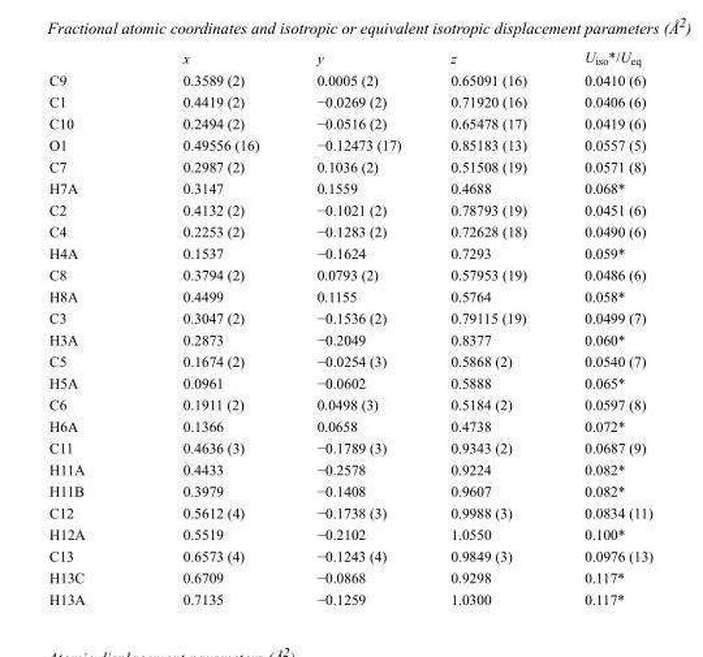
<table><thead><tr><td></td><td>x</td><td>y</td><td>z</td><td>U<sub>iso</sub>*/U<sub>eq</sub></td></tr></thead><tbody><tr><td>C9</td><td>0.3589 (2)</td><td>0.0005 (2)</td><td>0.65091 (16)</td><td>0.0410 (6)</td></tr><tr><td>C1</td><td>0.4419 (2)</td><td>−0.0269 (2)</td><td>0.71920 (16)</td><td>0.0406 (6)</td></tr><tr><td>C10</td><td>0.2494 (2)</td><td>−0.0516 (2)</td><td>0.65478 (17)</td><td>0.0419 (6)</td></tr><tr><td>O1</td><td>0.49556 (16)</td><td>−0.12473 (17)</td><td>0.85183 (13)</td><td>0.0557 (5)</td></tr><tr><td>C7</td><td>0.2987 (2)</td><td>0.1036 (2)</td><td>0.51508 (19)</td><td>0.0571 (8)</td></tr><tr><td>H7A</td><td>0.3147</td><td>0.1559</td><td>0.4688</td><td>0.068*</td></tr><tr><td>C2</td><td>0.4132 (2)</td><td>−0.1021 (2)</td><td>0.78793 (19)</td><td>0.0451 (6)</td></tr><tr><td>C4</td><td>0.2253 (2)</td><td>−0.1283 (2)</td><td>0.72628 (18)</td><td>0.0490 (6)</td></tr><tr><td>H4A</td><td>0.1537</td><td>−0.1624</td><td>0.7293</td><td>0.059*</td></tr><tr><td>C8</td><td>0.3794 (2)</td><td>0.0793 (2)</td><td>0.57953 (19)</td><td>0.0486 (6)</td></tr><tr><td>H8A</td><td>0.4499</td><td>0.1155</td><td>0.5764</td><td>0.058*</td></tr><tr><td>C3</td><td>0.3047 (2)</td><td>−0.1536 (2)</td><td>0.79115 (19)</td><td>0.0499 (7)</td></tr><tr><td>H3A</td><td>0.2873</td><td>−0.2049</td><td>0.8377</td><td>0.060*</td></tr><tr><td>C5</td><td>0.1674 (2)</td><td>−0.0254 (3)</td><td>0.5868 (2)</td><td>0.0540 (7)</td></tr><tr><td>H5A</td><td>0.0961</td><td>−0.0602</td><td>0.5888</td><td>0.065*</td></tr><tr><td>C6</td><td>0.1911 (2)</td><td>0.0498 (3)</td><td>0.5184 (2)</td><td>0.0597 (8)</td></tr><tr><td>H6A</td><td>0.1366</td><td>0.0658</td><td>0.4738</td><td>0.072*</td></tr><tr><td>C11</td><td>0.4636 (3)</td><td>−0.1789 (3)</td><td>0.9343 (2)</td><td>0.0687 (9)</td></tr><tr><td>H11A</td><td>0.4433</td><td>−0.2578</td><td>0.9224</td><td>0.082*</td></tr><tr><td>H11B</td><td>0.3979</td><td>−0.1408</td><td>0.9607</td><td>0.082*</td></tr><tr><td>C12</td><td>0.5612 (4)</td><td>−0.1738 (3)</td><td>0.9988 (3)</td><td>0.0834 (11)</td></tr><tr><td>H12A</td><td>0.5519</td><td>−0.2102</td><td>1.0550</td><td>0.100*</td></tr><tr><td>C13</td><td>0.6573 (4)</td><td>−0.1243 (4)</td><td>0.9849 (3)</td><td>0.0976 (13)</td></tr><tr><td>H13C</td><td>0.6709</td><td>−0.0868</td><td>0.9298</td><td>0.117*</td></tr><tr><td>H13A</td><td>0.7135</td><td>−0.1259</td><td>1.0300</td><td>0.117*</td></tr></tbody></table>